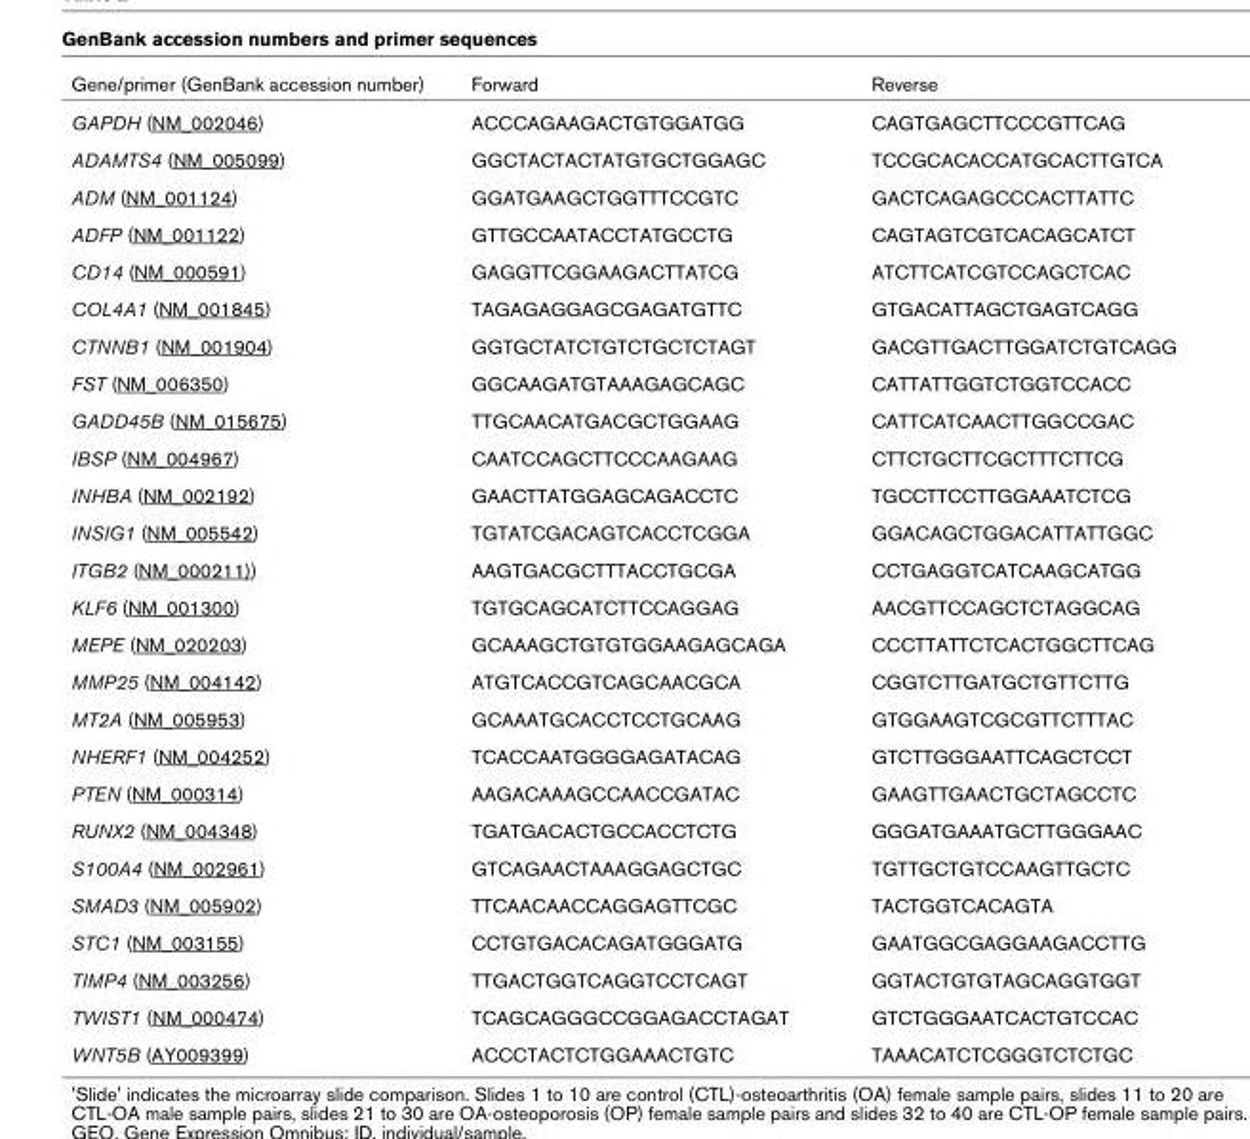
<table><thead><tr><td>Gene/primer (GenBank accession number)</td><td>Forward</td><td>Reverse</td></tr></thead><tbody><tr><td>GAPDH (NM_002046)</td><td>ACCCAGAAGACTGTGGATGG</td><td>CAGTGAGCTTCCCGTTCAG</td></tr><tr><td>ADAMTS4 (NM_005099)</td><td>GGCTACTACTATGTGCTGGAGC</td><td>TCCGCACACCATGCACTTGTCA</td></tr><tr><td>ADM (NM_001124)</td><td>GGATGAAGCTGGTTTCCGTC</td><td>GACTCAGAGCCCACTTATTC</td></tr><tr><td>ADFP (NM_001122)</td><td>GTTGCCAATACCTATGCCTG</td><td>CAGTAGTCGTCACAGCATCT</td></tr><tr><td>CD14 (NM_000591)</td><td>GAGGTTCGGAAGACTTATCG</td><td>ATCTTCATCGTCCAGCTCAC</td></tr><tr><td>COL4A1 (NM_001845)</td><td>TAGAGAGGAGCGAGATGTTC</td><td>GTGACATTAGCTGAGTCAGG</td></tr><tr><td>CTNNB1 (NM_001904)</td><td>GGTGCTATCTGTCTGCTCTAGT</td><td>GACGTTGACTTGGATCTGTCAGG</td></tr><tr><td>FST (NM_006350)</td><td>GGCAAGATGTAAAGAGCAGC</td><td>CATTATTGGTCTGGTCCACC</td></tr><tr><td>GADD45B (NM_015675)</td><td>TTGCAACATGACGCTGGAAG</td><td>CATTCATCAACTTGGCCGAC</td></tr><tr><td>IBSP (NM_004967)</td><td>CAATCCAGCTTCCCAAGAAG</td><td>CTTCTGCTTCGCTTTCTTCG</td></tr><tr><td>INHBA (NM_002192)</td><td>GAACTTATGGAGCAGACCTC</td><td>TGCCTTCCTTGGAAATCTCG</td></tr><tr><td>INSIG1 (NM_005542)</td><td>TGTATCGACAGTCACCTCGGA</td><td>GGACAGCTGGACATTATTGGC</td></tr><tr><td>ITGB2 (NM_000211))</td><td>AAGTGACGCTTTACCTGCGA</td><td>CCTGAGGTCATCAAGCATGG</td></tr><tr><td>KLF6 (NM_001300)</td><td>TGTGCAGCATCTTCCAGGAG</td><td>AACGTTCCAGCTCTAGGCAG</td></tr><tr><td>MEPE (NM_020203)</td><td>GCAAAGCTGTGTGGAAGAGCAGA</td><td>CCCTTATTCTCACTGGCTTCAG</td></tr><tr><td>MMP25 (NM_004142)</td><td>ATGTCACCGTCAGCAACGCA</td><td>CGGTCTTGATGCTGTTCTTG</td></tr><tr><td>MT2A (NM_005953)</td><td>GCAAATGCACCTCCTGCAAG</td><td>GTGGAAGTCGCGTTCTTTAC</td></tr><tr><td>NHERF1 (NM_004252)</td><td>TCACCAATGGGGAGATACAG</td><td>GTCTTGGGAATTCAGCTCCT</td></tr><tr><td>PTEN (NM_000314)</td><td>AAGACAAAGCCAACCGATAC</td><td>GAAGTTGAACTGCTAGCCTC</td></tr><tr><td>RUNX2 (NM_004348)</td><td>TGATGACACTGCCACCTCTG</td><td>GGGATGAAATGCTTGGGAAC</td></tr><tr><td>S100A4 (NM_002961)</td><td>GTCAGAACTAAAGGAGCTGC</td><td>TGTTGCTGTCCAAGTTGCTC</td></tr><tr><td>SMAD3 (NM_005902)</td><td>TTCAACAACCAGGAGTTCGC</td><td>TACTGGTCACAGTA</td></tr><tr><td>STC1 (NM_003155)</td><td>CCTGTGACACAGATGGGATG</td><td>GAATGGCGAGGAAGACCTTG</td></tr><tr><td>TIMP4 (NM_003256)</td><td>TTGACTGGTCAGGTCCTCAGT</td><td>GGTACTGTGTAGCAGGTGGT</td></tr><tr><td>TWIST1 (NM_000474)</td><td>TCAGCAGGGCCGGAGACCTAGAT</td><td>GTCTGGGAATCACTGTCCAC</td></tr><tr><td>WNT5B (AY009399)</td><td>ACCCTACTCTGGAAACTGTC</td><td>TAAACATCTCGGGTCTCTGC</td></tr></tbody></table>